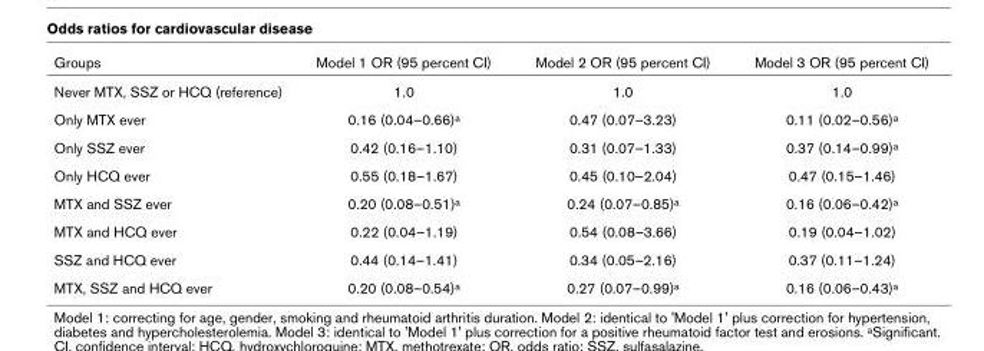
<table><thead><tr><td>Groups</td><td>Model 1 OR (95 percent CI)</td><td>Model 2 OR (95 percent CI)</td><td>Model 3 OR (95 percent CI)</td></tr></thead><tbody><tr><td>Never MTX, SSZ or HCQ (reference)</td><td>1.0</td><td>1.0</td><td>1.0</td></tr><tr><td>Only MTX ever</td><td>0.16 (0.04–0.66)a</td><td>0.47 (0.07–3.23)</td><td>0.11 (0.02–0.56)a</td></tr><tr><td>Only SSZ ever</td><td>0.42 (0.16–1.10)</td><td>0.31 (0.07–1.33)</td><td>0.37 (0.14–0.99)a</td></tr><tr><td>Only HCQ ever</td><td>0.55 (0.18–1.67)</td><td>0.45 (0.10–2.04)</td><td>0.47 (0.15–1.46)</td></tr><tr><td>MTX and SSZ ever</td><td>0.20 (0.08–0.51)a</td><td>0.24 (0.07–0.85)a</td><td>0.16 (0.06–0.42)a</td></tr><tr><td>MTX and HCQ ever</td><td>0.22 (0.04–1.19)</td><td>0.54 (0.08–3.66)</td><td>0.19 (0.04–1.02)</td></tr><tr><td>SSZ and HCQ ever</td><td>0.44 (0.14–1.41)</td><td>0.34 (0.05–2.16)</td><td>0.37 (0.11–1.24)</td></tr><tr><td>MTX, SSZ and HCQ ever</td><td>0.20 (0.08–0.54)a</td><td>0.27 (0.07–0.99)a</td><td>0.16 (0.06–0.43)a</td></tr></tbody></table>